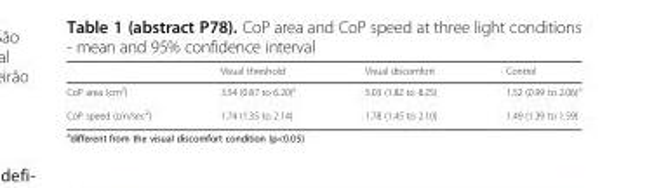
<table><thead><tr><td></td><td>Visual threshold</td><td>Visual discomfort</td><td>Control</td></tr></thead><tbody><tr><td>CoP area (cm<sup>2</sup>)</td><td>3.54 (0.87 to 6.20)<sup>a</sup></td><td>5.03 (1.82 to 8.25)</td><td>1.52 (0.99 to 2.06)<sup>a</sup></td></tr><tr><td>CoP speed (cm/sec<sup>2</sup>)</td><td>1.74 (1.35 to 2.14)</td><td>1.78 (1.45 to 2.10)</td><td>1.49 (1.39 to 1.59)</td></tr></tbody></table>